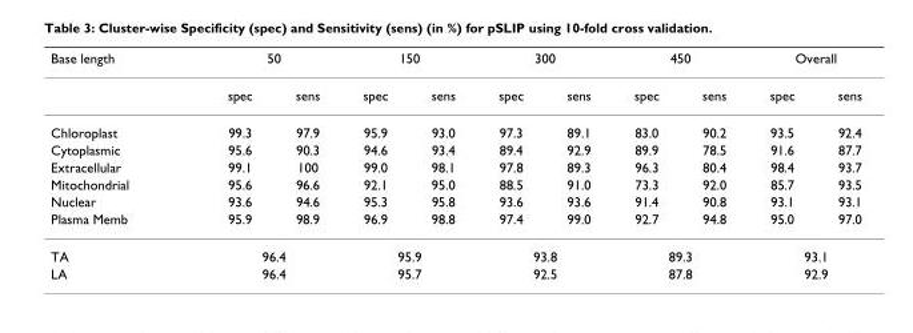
<table><thead><tr><td rowspan="2">Base length</td><td colspan="2">50</td><td colspan="2">150</td><td colspan="2">300</td><td colspan="2">450</td><td colspan="2">Overall</td></tr><tr><td>spec</td><td>sens</td><td>spec</td><td>sens</td><td>spec</td><td>sens</td><td>spec</td><td>sens</td><td>spec</td><td>sens</td></tr></thead><tbody><tr><td>Chloroplast</td><td>99.3</td><td>97.9</td><td>95.9</td><td>93.0</td><td>97.3</td><td>89.1</td><td>83.0</td><td>90.2</td><td>93.5</td><td>92.4</td></tr><tr><td>Cytoplasmic</td><td>95.6</td><td>90.3</td><td>94.6</td><td>93.4</td><td>89.4</td><td>92.9</td><td>89.9</td><td>78.5</td><td>91.6</td><td>87.7</td></tr><tr><td>Extracellular</td><td>99.1</td><td>100</td><td>99.0</td><td>98.1</td><td>97.8</td><td>89.3</td><td>96.3</td><td>80.4</td><td>98.4</td><td>93.7</td></tr><tr><td>Mitochondrial</td><td>95.6</td><td>96.6</td><td>92.1</td><td>95.0</td><td>88.5</td><td>91.0</td><td>73.3</td><td>92.0</td><td>85.7</td><td>93.5</td></tr><tr><td>Nuclear</td><td>93.6</td><td>94.6</td><td>95.3</td><td>95.8</td><td>93.6</td><td>93.6</td><td>91.4</td><td>90.8</td><td>93.1</td><td>93.1</td></tr><tr><td>Plasma Memb</td><td>95.9</td><td>98.9</td><td>96.9</td><td>98.8</td><td>97.4</td><td>99.0</td><td>92.7</td><td>94.8</td><td>95.0</td><td>97.0</td></tr><tr><td>TA</td><td colspan="2">96.4</td><td colspan="2">95.9</td><td colspan="2">93.8</td><td colspan="2">89.3</td><td colspan="2">93.1</td></tr><tr><td>LA</td><td colspan="2">96.4</td><td colspan="2">95.7</td><td colspan="2">92.5</td><td colspan="2">87.8</td><td colspan="2">92.9</td></tr></tbody></table>